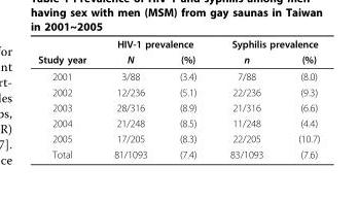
<table><thead><tr><td rowspan="2">Study year</td><td colspan="2">HIV-1 prevalence</td><td colspan="2">Syphilis prevalence</td></tr><tr><td>N</td><td>(%)</td><td>n</td><td>(%)</td></tr></thead><tbody><tr><td>2001</td><td>3/88</td><td>(3.4)</td><td>7/88</td><td>(8.0)</td></tr><tr><td>2002</td><td>12/236</td><td>(5.1)</td><td>22/236</td><td>(9.3)</td></tr><tr><td>2003</td><td>28/316</td><td>(8.9)</td><td>21/316</td><td>(6.6)</td></tr><tr><td>2004</td><td>21/248</td><td>(8.5)</td><td>11/248</td><td>(4.4)</td></tr><tr><td>2005</td><td>17/205</td><td>(8.3)</td><td>22/205</td><td>(10.7)</td></tr><tr><td>Total</td><td>81/1093</td><td>(7.4)</td><td>83/1093</td><td>(7.6)</td></tr></tbody></table>